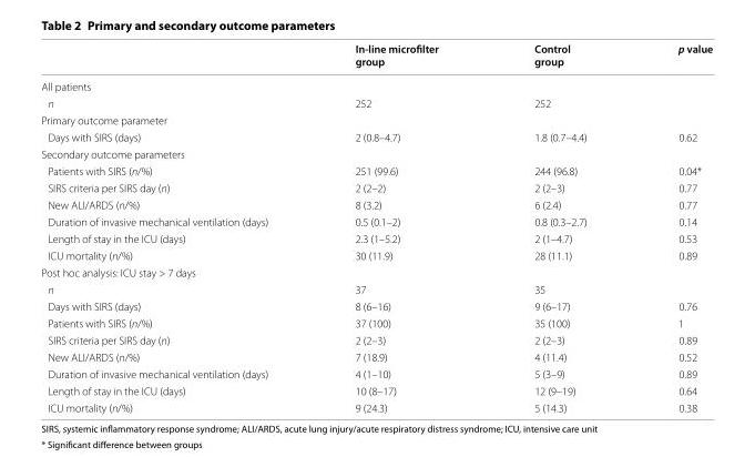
<table><thead><tr><td></td><td>In-line microfilter group</td><td>Control group</td><td>p value</td></tr></thead><tbody><tr><td colspan="4">All patients</td></tr><tr><td>n</td><td>252</td><td>252</td><td></td></tr><tr><td colspan="4">Primary outcome parameter</td></tr><tr><td>Days with SIRS (days)</td><td>2 (0.8–4.7)</td><td>1.8 (0.7–4.4)</td><td>0.62</td></tr><tr><td colspan="4">Secondary outcome parameters</td></tr><tr><td>Patients with SIRS (n/%)</td><td>251 (99.6)</td><td>244 (96.8)</td><td>0.04*</td></tr><tr><td>SIRS criteria per SIRS day (n)</td><td>2 (2–2)</td><td>2 (2–3)</td><td>0.77</td></tr><tr><td>New ALI/ARDS (n/%)</td><td>8 (3.2)</td><td>6 (2.4)</td><td>0.77</td></tr><tr><td>Duration of invasive mechanical ventilation (days)</td><td>0.5 (0.1–2)</td><td>0.8 (0.3–2.7)</td><td>0.14</td></tr><tr><td>Length of stay in the ICU (days)</td><td>2.3 (1–5.2)</td><td>2 (1–4.7)</td><td>0.53</td></tr><tr><td>ICU mortality (n/%)</td><td>30 (11.9)</td><td>28 (11.1)</td><td>0.89</td></tr><tr><td colspan="4">Post hoc analysis: ICU stay &gt; 7 days</td></tr><tr><td>n</td><td>37</td><td>35</td><td></td></tr><tr><td>Days with SIRS (days)</td><td>8 (6–16)</td><td>9 (6–17)</td><td>0.76</td></tr><tr><td>Patients with SIRS (n/%)</td><td>37 (100)</td><td>35 (100)</td><td>1</td></tr><tr><td>SIRS criteria per SIRS day (n)</td><td>2 (2–3)</td><td>2 (2–3)</td><td>0.89</td></tr><tr><td>New ALI/ARDS (n/%)</td><td>7 (18.9)</td><td>4 (11.4)</td><td>0.52</td></tr><tr><td>Duration of invasive mechanical ventilation (days)</td><td>4 (1–10)</td><td>5 (3–9)</td><td>0.89</td></tr><tr><td>Length of stay in the ICU (days)</td><td>10 (8–17)</td><td>12 (9–19)</td><td>0.64</td></tr><tr><td>ICU mortality (n/%)</td><td>9 (24.3)</td><td>5 (14.3)</td><td>0.38</td></tr></tbody></table>